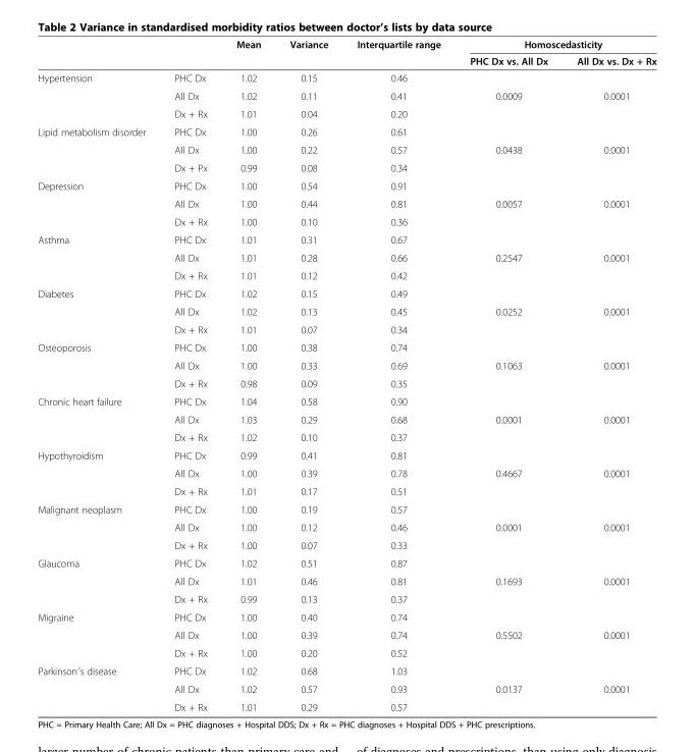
<table><thead><tr><td rowspan="2"></td><td rowspan="2"></td><td rowspan="2">Mean</td><td rowspan="2">Variance</td><td rowspan="2">Interquartile range</td><td colspan="2">Homoscedasticity</td></tr><tr><td>PHC Dx vs. All Dx</td><td>All Dx vs. Dx + Rx</td></tr></thead><tbody><tr><td rowspan="3">Hypertension</td><td>PHC Dx</td><td>1.02</td><td>0.15</td><td>0.46</td><td></td><td></td></tr><tr><td>All Dx</td><td>1.02</td><td>0.11</td><td>0.41</td><td>0.0009</td><td>0.0001</td></tr><tr><td>Dx + Rx</td><td>1.01</td><td>0.04</td><td>0.20</td><td></td><td></td></tr><tr><td rowspan="3">Lipid metabolism disorder</td><td>PHC Dx</td><td>1.00</td><td>0.26</td><td>0.61</td><td></td><td></td></tr><tr><td>All Dx</td><td>1.00</td><td>0.22</td><td>0.57</td><td>0.0438</td><td>0.0001</td></tr><tr><td>Dx + Px</td><td>0.99</td><td>0.08</td><td>0.34</td><td></td><td></td></tr><tr><td rowspan="3">Depression</td><td>PHC Dx</td><td>1.00</td><td>0.54</td><td>0.91</td><td></td><td></td></tr><tr><td>All Dx</td><td>1.00</td><td>0.44</td><td>0.81</td><td>0.0057</td><td>0.0001</td></tr><tr><td>Dx + Rx</td><td>1.00</td><td>0.10</td><td>0.36</td><td></td><td></td></tr><tr><td rowspan="3">Asthma</td><td>PHC Dx</td><td>1.01</td><td>0.31</td><td>0.67</td><td></td><td></td></tr><tr><td>All Dx</td><td>1.01</td><td>0.28</td><td>0.66</td><td>0.2547</td><td>0.0001</td></tr><tr><td>Dx + Rx</td><td>1.01</td><td>0.12</td><td>0.42</td><td></td><td></td></tr><tr><td rowspan="3">Diabetes</td><td>PHC Dx</td><td>1.02</td><td>0.15</td><td>0.49</td><td></td><td></td></tr><tr><td>All Dx</td><td>1.02</td><td>0.13</td><td>0.45</td><td>0.0252</td><td>0.0001</td></tr><tr><td>Dx + Rx</td><td>1.01</td><td>0.07</td><td>0.34</td><td></td><td></td></tr><tr><td rowspan="3">Osteoporosis</td><td>PHC Dx</td><td>1.00</td><td>0.38</td><td>0.74</td><td></td><td></td></tr><tr><td>All Dx</td><td>1.00</td><td>0.33</td><td>0.69</td><td>0.1063</td><td>0.0001</td></tr><tr><td>Dx + Rx</td><td>0.98</td><td>0.09</td><td>0.35</td><td></td><td></td></tr><tr><td rowspan="3">Chronic heart failure</td><td>PHC Dx</td><td>1.04</td><td>0.58</td><td>0.90</td><td></td><td></td></tr><tr><td>All Dx</td><td>1.03</td><td>0.29</td><td>0.68</td><td>0.0001</td><td>0.0001</td></tr><tr><td>Dx + Rx</td><td>1.02</td><td>0.10</td><td>0.37</td><td></td><td></td></tr><tr><td rowspan="3">Hypothyroidism</td><td>PHC Dx</td><td>0.99</td><td>0.41</td><td>0.81</td><td></td><td></td></tr><tr><td>All Dx</td><td>1.00</td><td>0.39</td><td>0.78</td><td>0.4667</td><td>0.0001</td></tr><tr><td>Dx + Rx</td><td>1.01</td><td>0.17</td><td>0.51</td><td></td><td></td></tr><tr><td rowspan="3">Malignant neoplasm</td><td>PHC Dx</td><td>1.00</td><td>0.19</td><td>0.57</td><td></td><td></td></tr><tr><td>All Dx</td><td>1.00</td><td>0.12</td><td>0.46</td><td>0.0001</td><td>0.0001</td></tr><tr><td>Dx + Rx</td><td>1.00</td><td>0.07</td><td>0.33</td><td></td><td></td></tr><tr><td rowspan="3">Glaucoma</td><td>PHC Dx</td><td>1.02</td><td>0.51</td><td>0.87</td><td></td><td></td></tr><tr><td>All Dx</td><td>1.01</td><td>0.46</td><td>0.81</td><td>0.1693</td><td>0.0001</td></tr><tr><td>Dx + Rx</td><td>0.99</td><td>0.13</td><td>0.37</td><td></td><td></td></tr><tr><td rowspan="3">Migraine</td><td>PHC Dx</td><td>1.00</td><td>0.40</td><td>0.74</td><td></td><td></td></tr><tr><td>All Dx</td><td>1.00</td><td>0.39</td><td>0.74</td><td>0.5502</td><td>0.0001</td></tr><tr><td>Dx + Rx</td><td>1.00</td><td>0.20</td><td>0.52</td><td></td><td></td></tr><tr><td rowspan="3">Parkinson´s disease</td><td>PHC Dx</td><td>1.02</td><td>0.68</td><td>1.03</td><td></td><td></td></tr><tr><td>All Dx</td><td>1.02</td><td>0.57</td><td>0.93</td><td>0.0137</td><td>0.0001</td></tr><tr><td>Dx + Rx</td><td>1.01</td><td>0.29</td><td>0.57</td><td></td><td></td></tr></tbody></table>